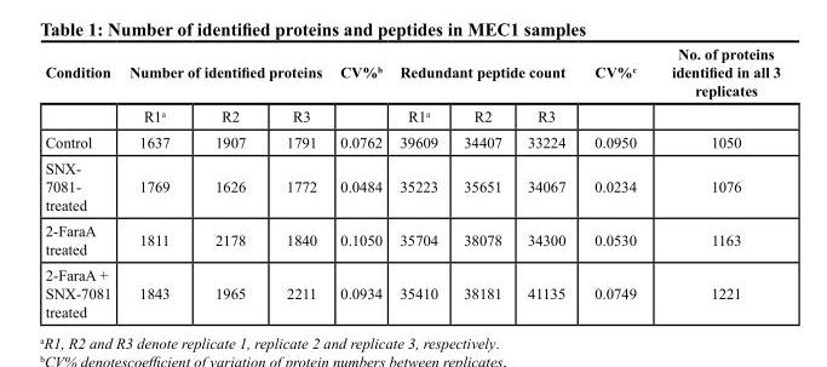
<table><thead><tr><td rowspan="2">Condition</td><td colspan="3">Number of identified proteins</td><td rowspan="2">CV%<sup>b</sup></td><td colspan="3">Redundant peptide count</td><td rowspan="2">CV%<sup>c</sup></td><td rowspan="2">No. of proteins identified in all 3 replicates</td></tr><tr><td>R1<sup>a</sup></td><td>R2</td><td>R3</td><td>R1<sup>a</sup></td><td>R2</td><td>R3</td></tr></thead><tbody><tr><td>Control</td><td>1637</td><td>1907</td><td>1791</td><td>0.0762</td><td>39609</td><td>34407</td><td>33224</td><td>0.0950</td><td>1050</td></tr><tr><td>SNX- 7081- treated</td><td>1769</td><td>1626</td><td>1772</td><td>0.0484</td><td>35223</td><td>35651</td><td>34067</td><td>0.0234</td><td>1076</td></tr><tr><td>2-FaraA treated</td><td>1811</td><td>2178</td><td>1840</td><td>0.1050</td><td>35704</td><td>38078</td><td>34300</td><td>0.0530</td><td>1163</td></tr><tr><td>2-FaraA + SNX-7081 treated</td><td>1843</td><td>1965</td><td>2211</td><td>0.0934</td><td>35410</td><td>38181</td><td>41135</td><td>0.0749</td><td>1221</td></tr></tbody></table>